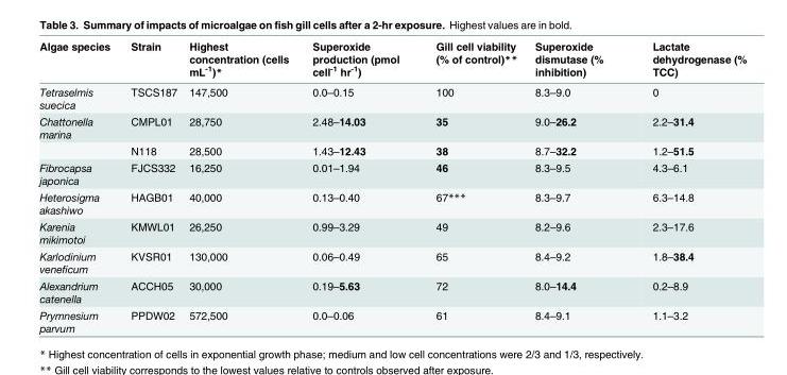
<table><thead><tr><td>Algae species</td><td>Strain</td><td>Highest concentration (cells mL<sup>-1</sup>)*</td><td>Superoxide production (pmol cell<sup>-1</sup> hr<sup>-1</sup>)</td><td>Gill cell viability (% of control)**</td><td>Superoxide dismutase (% inhibition)</td><td>Lactate dehydrogenase (% TCC)</td></tr></thead><tbody><tr><td>Tetraselmis suecica</td><td>TSCS187</td><td>147,500</td><td>0.0–0.15</td><td>100</td><td>8.3–9.0</td><td>0</td></tr><tr><td rowspan="2">Chattonella marina</td><td>CMPL01</td><td>28,750</td><td>2.48–14.03</td><td>35</td><td>9.0–26.2</td><td>2.2–31.4</td></tr><tr><td>N118</td><td>28,500</td><td>1.43–12.43</td><td>38</td><td>8.7–32.2</td><td>1.2–51.5</td></tr><tr><td>Fibrocapsa japonica</td><td>FJCS332</td><td>16,250</td><td>0.01–1.94</td><td>46</td><td>8.3–9.5</td><td>4.3–6.1</td></tr><tr><td>Heterosigma akashiwo</td><td>HAGB01</td><td>40,000</td><td>0.13–0.40</td><td>67***</td><td>8.3–9.7</td><td>6.3–14.8</td></tr><tr><td>Karenia mikimotoi</td><td>KMWL01</td><td>26,250</td><td>0.99–3.29</td><td>49</td><td>8.2–9.6</td><td>2.3–17.6</td></tr><tr><td>Karlodinium veneficum</td><td>KVSR01</td><td>130,000</td><td>0.06–0.49</td><td>65</td><td>8.4–9.2</td><td>1.8–38.4</td></tr><tr><td>Alexandrium catenella</td><td>ACCH05</td><td>30,000</td><td>0.19–5.63</td><td>72</td><td>8.0–14.4</td><td>0.2–8.9</td></tr><tr><td>Prymnesium parvum</td><td>PPDW02</td><td>572,500</td><td>0.0–0.06</td><td>61</td><td>8.4–9.1</td><td>1.1–3.2</td></tr></tbody></table>